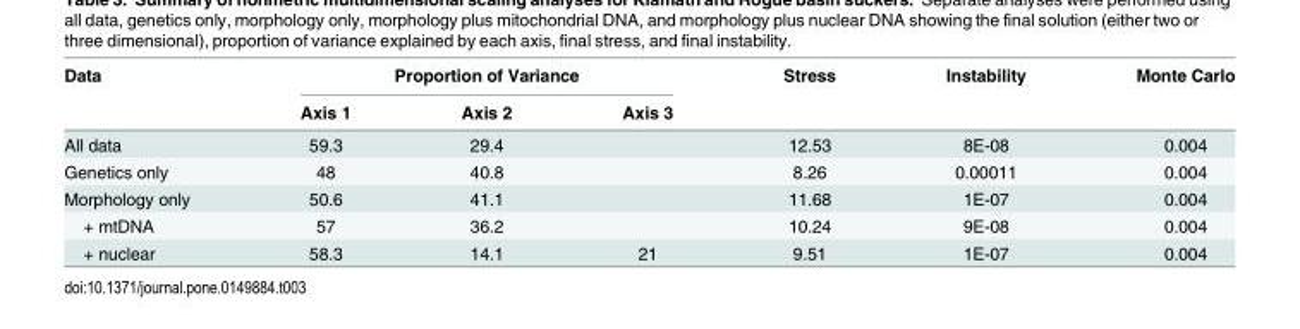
<table><thead><tr><td rowspan="2">Data</td><td colspan="3">Proportion of Variance</td><td rowspan="2">Stress</td><td rowspan="2">Instability</td><td rowspan="2">Monte Carlo</td></tr><tr><td>Axis 1</td><td>Axis 2</td><td>Axis 3</td></tr></thead><tbody><tr><td>All data</td><td>59.3</td><td>29.4</td><td></td><td>12.53</td><td>8E-08</td><td>0.004</td></tr><tr><td>Genetics only</td><td>48</td><td>40.8</td><td></td><td>8.26</td><td>0.00011</td><td>0.004</td></tr><tr><td>Morphology only</td><td>50.6</td><td>41.1</td><td></td><td>11.68</td><td>1E-07</td><td>0.004</td></tr><tr><td>+ mtDNA</td><td>57</td><td>36.2</td><td></td><td>10.24</td><td>9E-08</td><td>0.004</td></tr><tr><td>+ nuclear</td><td>58.3</td><td>14.1</td><td>21</td><td>9.51</td><td>1E-07</td><td>0.004</td></tr></tbody></table>